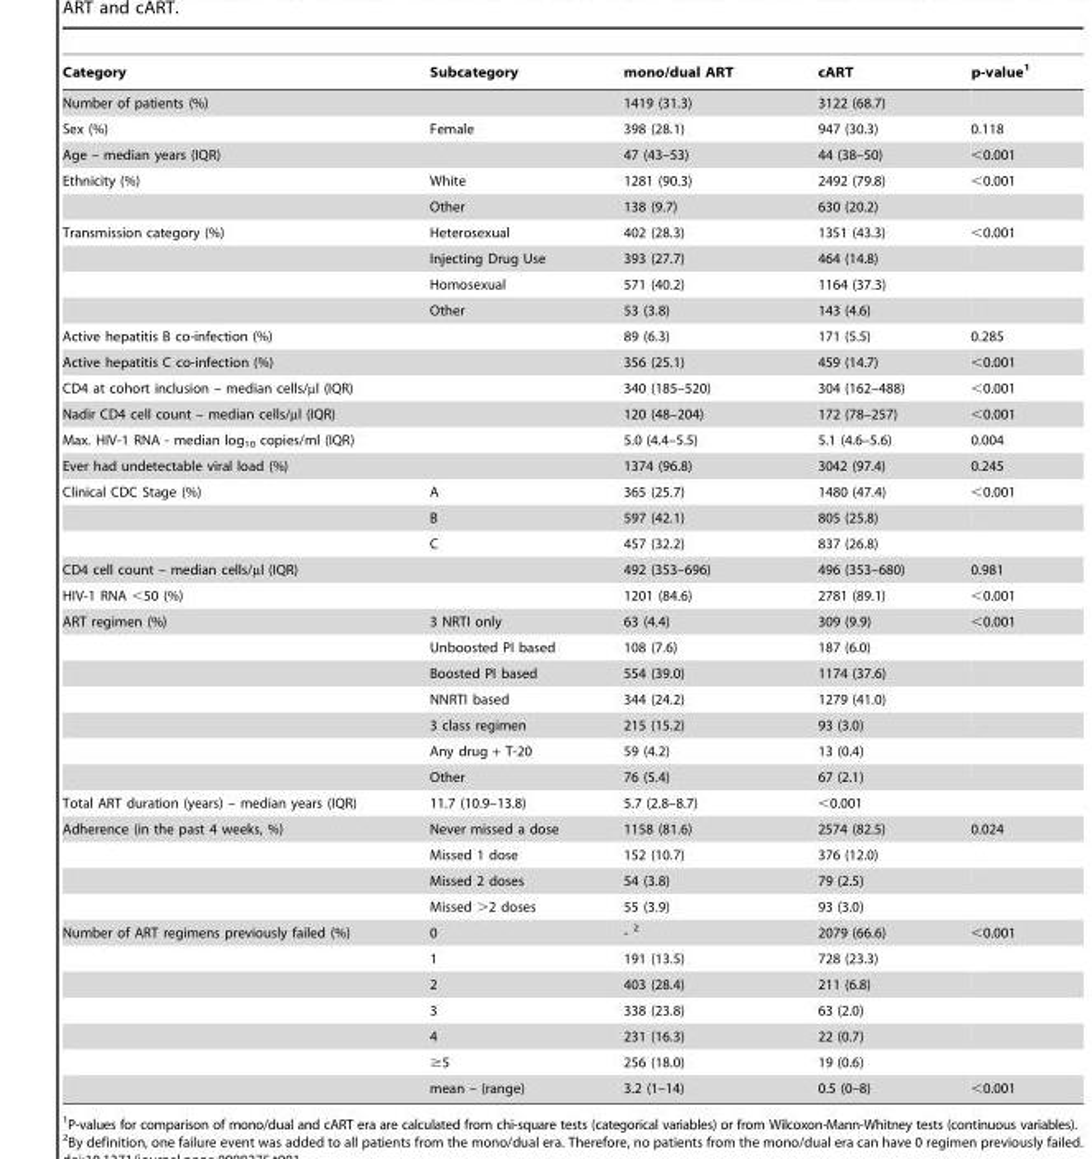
<table><thead><tr><td>Category</td><td>Subcategory</td><td>mono/dual ART</td><td>cART</td><td>p-value<sup>1</sup></td></tr></thead><tbody><tr><td>Number of patients (%)</td><td></td><td>1419 (31.3)</td><td>3122 (68.7)</td><td></td></tr><tr><td>Sex (%)</td><td>Female</td><td>398 (28.1)</td><td>947 (30.3)</td><td>0.118</td></tr><tr><td>Age – median years (IQR)</td><td></td><td>47 (43–53)</td><td>44 (38–50)</td><td>&lt;0.001</td></tr><tr><td rowspan="2">Ethnicity (%)</td><td>White</td><td>1281 (90.3)</td><td>2492 (79.8)</td><td>&lt;0.001</td></tr><tr><td>Other</td><td>138 (9.7)</td><td>630 (20.2)</td><td></td></tr><tr><td rowspan="4">Transmission category (%)</td><td>Heterosexual</td><td>402 (28.3)</td><td>1351 (43.3)</td><td>&lt;0.001</td></tr><tr><td>Injecting Drug Use</td><td>393 (27.7)</td><td>464 (14.8)</td><td></td></tr><tr><td>Homosexual</td><td>571 (40.2)</td><td>1164 (37.3)</td><td></td></tr><tr><td>Other</td><td>53 (3.8)</td><td>143 (4.6)</td><td></td></tr><tr><td>Active hepatitis B co-infection (%)</td><td></td><td>89 (6.3)</td><td>171 (5.5)</td><td>0.285</td></tr><tr><td>Active hepatitis C co-infection (%)</td><td></td><td>356 (25.1)</td><td>459 (14.7)</td><td>&lt;0.001</td></tr><tr><td>CD4 at cohort inclusion – median cells/µl (IQR)</td><td></td><td>340 (185–520)</td><td>304 (162–488)</td><td>&lt;0.001</td></tr><tr><td>Nadir CD4 cell count – median cells/µl (IQR)</td><td></td><td>120 (48–204)</td><td>172 (78–257)</td><td>&lt;0.001</td></tr><tr><td>Max. HIV-1 RNA - median log<sub>10</sub> copies/ml (IQR)</td><td></td><td>5.0 (4.4–5.5)</td><td>5.1 (4.6–5.6)</td><td>0.004</td></tr><tr><td>Ever had undetectable viral load (%)</td><td></td><td>1374 (96.8)</td><td>3042 (97.4)</td><td>0.245</td></tr><tr><td rowspan="3">Clinical CDC Stage (%)</td><td>A</td><td>365 (25.7)</td><td>1480 (47.4)</td><td>&lt;0.001</td></tr><tr><td>B</td><td>597 (42.1)</td><td>805 (25.8)</td><td></td></tr><tr><td>C</td><td>457 (32.2)</td><td>837 (26.8)</td><td></td></tr><tr><td>CD4 cell count – median cells/µl (IQR)</td><td></td><td>492 (353–696)</td><td>496 (353–680)</td><td>0.981</td></tr><tr><td>HIV-1 RNA &lt;50 (%)</td><td></td><td>1201 (84.6)</td><td>2781 (89.1)</td><td>&lt;0.001</td></tr><tr><td rowspan="7">ART regimen (%)</td><td>3 NRTI only</td><td>63 (4.4)</td><td>309 (9.9)</td><td>&lt;0.001</td></tr><tr><td>Unboosted PI based</td><td>108 (7.6)</td><td>187 (6.0)</td><td></td></tr><tr><td>Boosted PI based</td><td>554 (39.0)</td><td>1174 (37.6)</td><td></td></tr><tr><td>NNRTI based</td><td>344 (24.2)</td><td>1279 (41.0)</td><td></td></tr><tr><td>3 class regimen</td><td>215 (15.2)</td><td>93 (3.0)</td><td></td></tr><tr><td>Any drug + T-20</td><td>59 (4.2)</td><td>13 (0.4)</td><td></td></tr><tr><td>Other</td><td>76 (5.4)</td><td>67 (2.1)</td><td></td></tr><tr><td>Total ART duration (years) – median years (IQR)</td><td>11.7 (10.9–13.8)</td><td>5.7 (2.8–8.7)</td><td>&lt;0.001</td><td></td></tr><tr><td rowspan="4">Adherence (in the past 4 weeks, %)</td><td>Never missed a dose</td><td>1158 (81.6)</td><td>2574 (82.5)</td><td>0.024</td></tr><tr><td>Missed 1 dose</td><td>152 (10.7)</td><td>376 (12.0)</td><td></td></tr><tr><td>Missed 2 doses</td><td>54 (3.8)</td><td>79 (2.5)</td><td></td></tr><tr><td>Missed &gt;2 doses</td><td>55 (3.9)</td><td>93 (3.0)</td><td></td></tr><tr><td rowspan="7">Number of ART regimens previously failed (%)</td><td>0</td><td>- 2</td><td>2079 (66.6)</td><td>&lt;0.001</td></tr><tr><td>1</td><td>191 (13.5)</td><td>728 (23.3)</td><td></td></tr><tr><td>2</td><td>403 (28.4)</td><td>211 (6.8)</td><td></td></tr><tr><td>3</td><td>338 (23.8)</td><td>63 (2.0)</td><td></td></tr><tr><td>4</td><td>231 (16.3)</td><td>22 (0.7)</td><td></td></tr><tr><td>≥5</td><td>256 (18.0)</td><td>19 (0.6)</td><td></td></tr><tr><td>mean – (range)</td><td>3.2 (1–14)</td><td>0.5 (0–8)</td><td>&lt;0.001</td></tr></tbody></table>